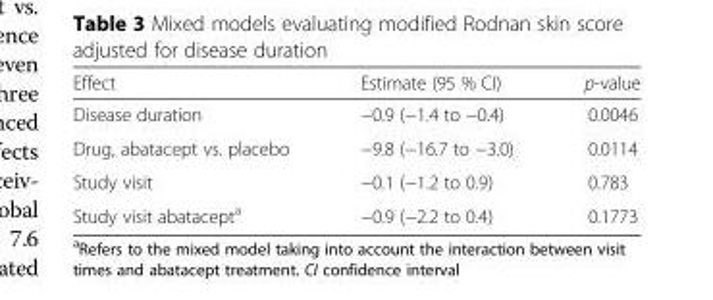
<table><thead><tr><td>Effect</td><td>Estimate (95 % CI)</td><td>p-value</td></tr></thead><tbody><tr><td>Disease duration</td><td>−0.9 (−1.4 to −0.4)</td><td>0.0046</td></tr><tr><td>Drug, abatacept vs. placebo</td><td>−9.8 (−16.7 to −3.0)</td><td>0.0114</td></tr><tr><td>Study visit</td><td>−0.1 (−1.2 to 0.9)</td><td>0.783</td></tr><tr><td>Study visit abatacept<sup>a</sup></td><td>−0.9 (−2.2 to 0.4)</td><td>0.1773</td></tr></tbody></table>